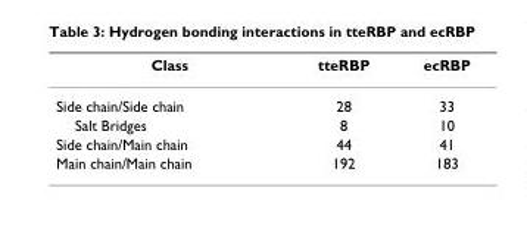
<table><thead><tr><td>Class</td><td>tteRBP</td><td>ecRBP</td></tr></thead><tbody><tr><td>Side chain/Side chain</td><td>28</td><td>33</td></tr><tr><td>Salt Bridges</td><td>8</td><td>10</td></tr><tr><td>Side chain/Main chain</td><td>44</td><td>41</td></tr><tr><td>Main chain/Main chain</td><td>192</td><td>183</td></tr></tbody></table>